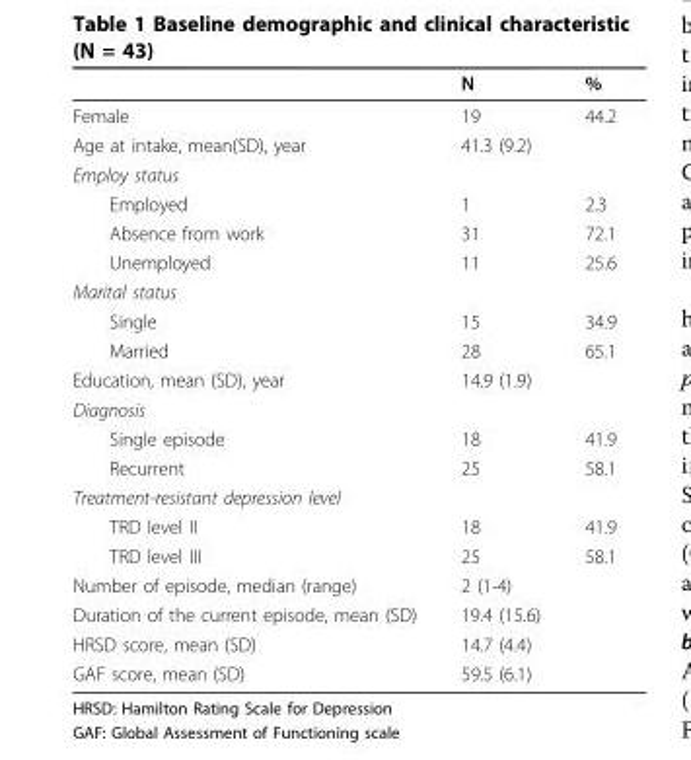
<table><thead><tr><td></td><td>N</td><td>%</td></tr></thead><tbody><tr><td>Female</td><td>19</td><td>44.2</td></tr><tr><td>Age at intake, mean(SD), year</td><td>41.3 (9.2)</td><td></td></tr><tr><td colspan="3">Employ status</td></tr><tr><td>Employed</td><td>1</td><td>2.3</td></tr><tr><td>Absence from work</td><td>31</td><td>72.1</td></tr><tr><td>Unemployed</td><td>11</td><td>25.6</td></tr><tr><td colspan="3">Marital status</td></tr><tr><td>Single</td><td>15</td><td>34.9</td></tr><tr><td>Married</td><td>28</td><td>65.1</td></tr><tr><td>Education, mean (SD), year</td><td>14.9 (1.9)</td><td></td></tr><tr><td colspan="3">Diagnosis</td></tr><tr><td>Single episode</td><td>18</td><td>41.9</td></tr><tr><td>Recurrent</td><td>25</td><td>58.1</td></tr><tr><td colspan="3">Treatment-resistant depression level</td></tr><tr><td>TRD level II</td><td>18</td><td>41.9</td></tr><tr><td>TRD level III</td><td>25</td><td>58.1</td></tr><tr><td>Number of episode, median (range)</td><td>2 (1-4)</td><td></td></tr><tr><td>Duration of the current episode, mean (SD)</td><td>19.4 (15.6)</td><td></td></tr><tr><td>HRSD score, mean (SD)</td><td>14.7 (4.4)</td><td></td></tr><tr><td>GAF score, mean (SD)</td><td>59.5 (6.1)</td><td></td></tr></tbody></table>